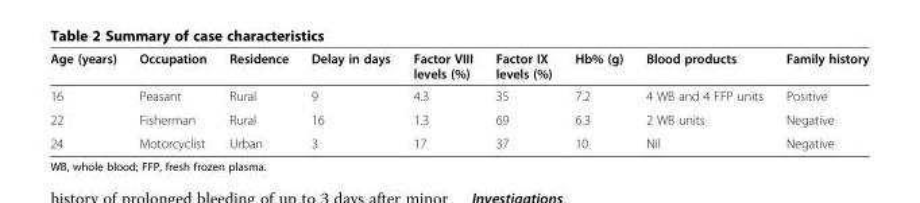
<table><thead><tr><td>Age (years)</td><td>Occupation</td><td>Residence</td><td>Delay in days</td><td>Factor VIII levels (%)</td><td>Factor IX levels (%)</td><td>Hb% (g)</td><td>Blood products</td><td>Family history</td></tr></thead><tbody><tr><td>16</td><td>Peasant</td><td>Rural</td><td>9</td><td>4.3</td><td>35</td><td>7.2</td><td>4 WB and 4 FFP units</td><td>Positive</td></tr><tr><td>22</td><td>Fisherman</td><td>Rural</td><td>16</td><td>1.3</td><td>69</td><td>6.3</td><td>2 WB units</td><td>Negative</td></tr><tr><td>24</td><td>Motorcyclist</td><td>Urban</td><td>3</td><td>17</td><td>37</td><td>10</td><td>Nil</td><td>Negative</td></tr></tbody></table>